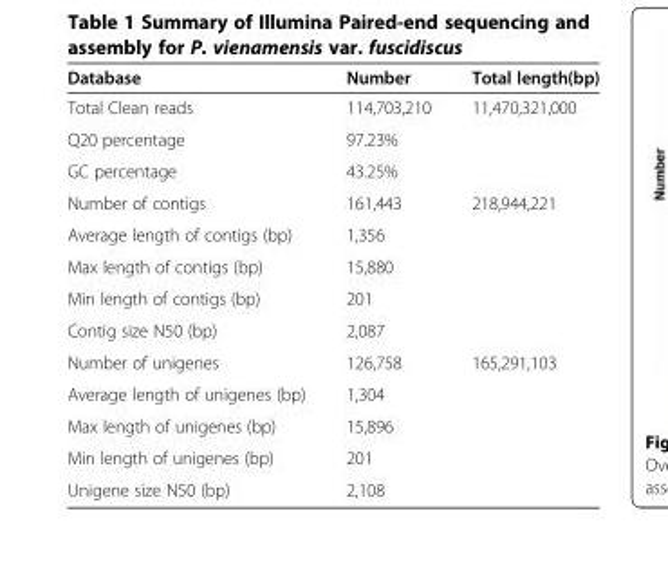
<table><thead><tr><td>Database</td><td>Number</td><td>Total length(bp)</td></tr></thead><tbody><tr><td>Total Clean reads</td><td>114,703,210</td><td>11,470,321,000</td></tr><tr><td>Q20 percentage</td><td>97.23%</td><td></td></tr><tr><td>GC percentage</td><td>43.25%</td><td></td></tr><tr><td>Number of contigs</td><td>161,443</td><td>218,944,221</td></tr><tr><td>Average length of contigs (bp)</td><td>1,356</td><td></td></tr><tr><td>Max length of contigs (bp)</td><td>15,880</td><td></td></tr><tr><td>Min length of contigs (bp)</td><td>201</td><td></td></tr><tr><td>Contig size N50 (bp)</td><td>2,087</td><td></td></tr><tr><td>Number of unigenes</td><td>126,758</td><td>165,291,103</td></tr><tr><td>Average length of unigenes (bp)</td><td>1,304</td><td></td></tr><tr><td>Max length of unigenes (bp)</td><td>15,896</td><td></td></tr><tr><td>Min length of unigenes (bp)</td><td>201</td><td></td></tr><tr><td>Unigene size N50 (bp)</td><td>2,108</td><td></td></tr></tbody></table>